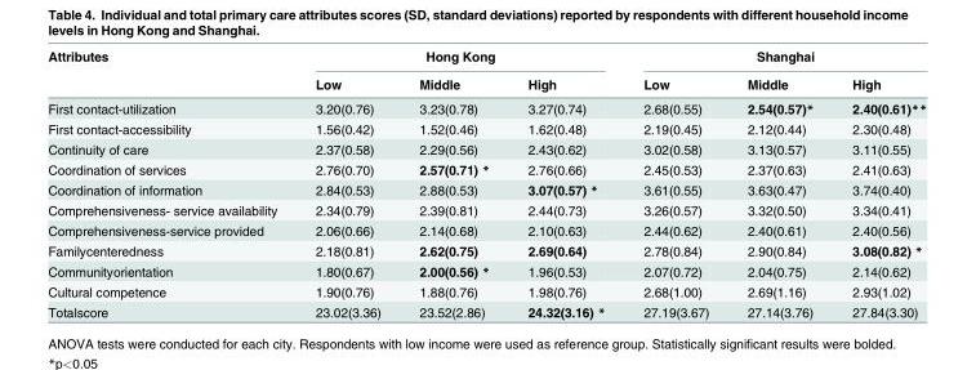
<table><thead><tr><td rowspan="2">Attributes</td><td colspan="3">Hong Kong</td><td colspan="3">Shanghai</td></tr><tr><td>Low</td><td>Middle</td><td>High</td><td>Low</td><td>Middle</td><td>High</td></tr></thead><tbody><tr><td>First contact-utilization</td><td>3.20(0.76)</td><td>3.23(0.78)</td><td>3.27(0.74)</td><td>2.68(0.55)</td><td>2.54(0.57)*</td><td>2.40(0.61)**</td></tr><tr><td>First contact-accessibility</td><td>1.56(0.42)</td><td>1.52(0.46)</td><td>1.62(0.48)</td><td>2.19(0.45)</td><td>2.12(0.44)</td><td>2.30(0.48)</td></tr><tr><td>Continuity of care</td><td>2.37(0.58)</td><td>2.29(0.56)</td><td>2.43(0.62)</td><td>3.02(0.58)</td><td>3.13(0.57)</td><td>3.11(0.55)</td></tr><tr><td>Coordination of services</td><td>2.76(0.70)</td><td>2.57(0.71) *</td><td>2.76(0.66)</td><td>2.45(0.53)</td><td>2.37(0.63)</td><td>2.41(0.63)</td></tr><tr><td>Coordination of information</td><td>2.84(0.53)</td><td>2.88(0.53)</td><td>3.07(0.57) *</td><td>3.61(0.55)</td><td>3.63(0.47)</td><td>3.74(0.40)</td></tr><tr><td>Comprehensiveness- service availability</td><td>2.34(0.79)</td><td>2.39(0.81)</td><td>2.44(0.73)</td><td>3.26(0.57)</td><td>3.32(0.50)</td><td>3.34(0.41)</td></tr><tr><td>Comprehensiveness-service provided</td><td>2.06(0.66)</td><td>2.14(0.68)</td><td>2.10(0.63)</td><td>2.44(0.62)</td><td>2.40(0.61)</td><td>2.40(0.56)</td></tr><tr><td>Familycenteredness</td><td>2.18(0.81)</td><td>2.62(0.75)</td><td>2.69(0.64)</td><td>2.78(0.84)</td><td>2.90(0.84)</td><td>3.08(0.82) *</td></tr><tr><td>Communityorientation</td><td>1.80(0.67)</td><td>2.00(0.56) *</td><td>1.96(0.53)</td><td>2.07(0.72)</td><td>2.04(0.75)</td><td>2.14(0.62)</td></tr><tr><td>Cultural competence</td><td>1.90(0.76)</td><td>1.88(0.76)</td><td>1.98(0.76)</td><td>2.68(1.00)</td><td>2.69(1.16)</td><td>2.93(1.02)</td></tr><tr><td>Totalscore</td><td>23.02(3.36)</td><td>23.52(2.86)</td><td>24.32(3.16) *</td><td>27.19(3.67)</td><td>27.14(3.76)</td><td>27.84(3.30)</td></tr></tbody></table>